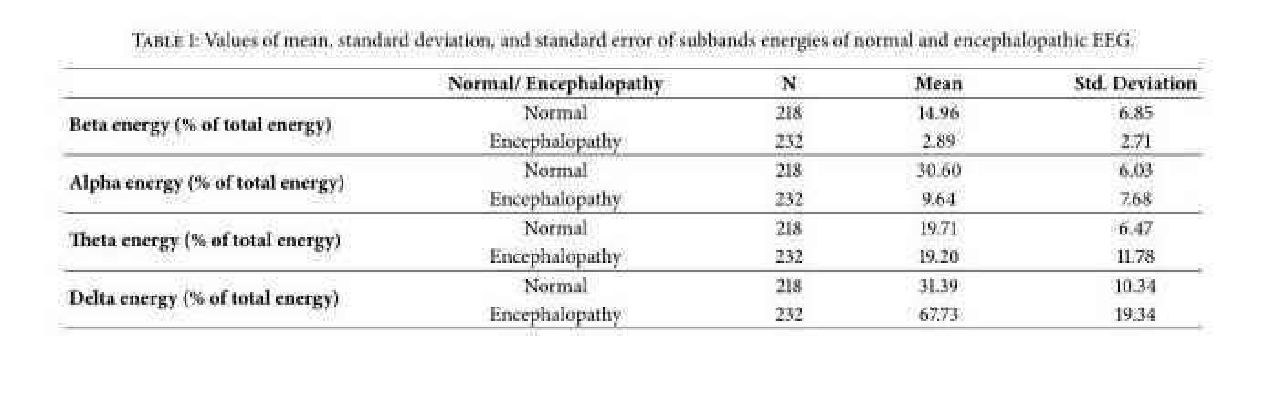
<table><thead><tr><td></td><td>Normal/ Encephalopathy</td><td>N</td><td>Mean</td><td>Std. Deviation</td></tr></thead><tbody><tr><td rowspan="2">Beta energy (% of total energy)</td><td>Normal</td><td>218</td><td>14.96</td><td>6.85</td></tr><tr><td>Encephalopathy</td><td>232</td><td>2.89</td><td>2.71</td></tr><tr><td rowspan="2">Alpha energy (% of total energy)</td><td>Normal</td><td>218</td><td>30.60</td><td>6.03</td></tr><tr><td>Encephalopathy</td><td>232</td><td>9.64</td><td>7.68</td></tr><tr><td rowspan="2">Teta energy (% of total energy)</td><td>Normal</td><td>218</td><td>19.71</td><td>6.47</td></tr><tr><td>Encephalopathy</td><td>232</td><td>19.20</td><td>11.78</td></tr><tr><td rowspan="2">Delta energy (% of total energy)</td><td>Normal</td><td>218</td><td>31.39</td><td>10.34</td></tr><tr><td>Encephalopathy</td><td>232</td><td>67.73</td><td>19.34</td></tr></tbody></table>